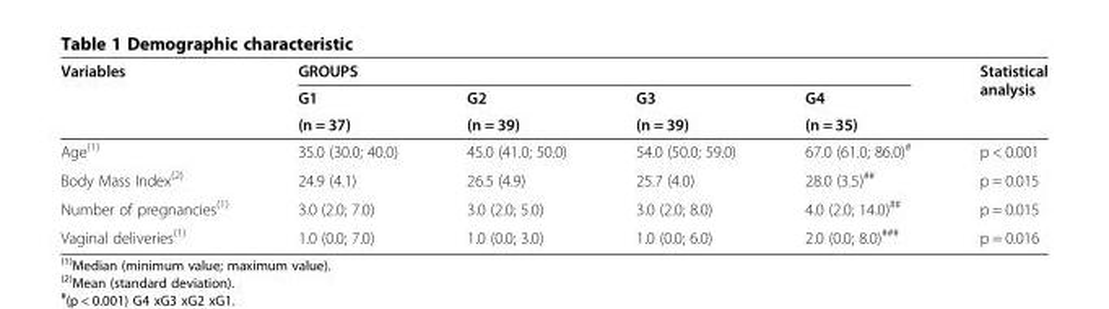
<table><thead><tr><td rowspan="3">Variables</td><td colspan="4">GROUPS</td><td rowspan="3">Statistical analysis</td></tr><tr><td rowspan="2">G1 (n = 37)</td><td rowspan="2">G2 (n = 39)</td><td rowspan="2">G3 (n = 39)</td><td rowspan="2">G4 (n = 35)</td></tr><tr></tr></thead><tbody><tr><td>Age<sup>(1)</sup></td><td>35.0 (30.0; 40.0)</td><td>45.0 (41.0; 50.0)</td><td>54.0 (50.0; 59.0)</td><td>67.0 (61.0; 86.0)<sup>#</sup></td><td>p &lt; 0.001</td></tr><tr><td>Body Mass Index<sup>(2)</sup></td><td>24.9 (4.1)</td><td>26.5 (4.9)</td><td>25.7 (4.0)</td><td>28.0 (3.5)<sup>##</sup></td><td>p = 0.015</td></tr><tr><td>Number of pregnancies<sup>(1)</sup></td><td>3.0 (2.0; 7.0)</td><td>3.0 (2.0; 5.0)</td><td>3.0 (2.0; 8.0)</td><td>4.0 (2.0; 14.0)<sup>##</sup></td><td>p = 0.015</td></tr><tr><td>Vaginal deliveries<sup>(1)</sup></td><td>1.0 (0.0; 7.0)</td><td>1.0 (0.0; 3.0)</td><td>1.0 (0.0; 6.0)</td><td>2.0 (0.0; 8.0)<sup>###</sup></td><td>p = 0.016</td></tr></tbody></table>